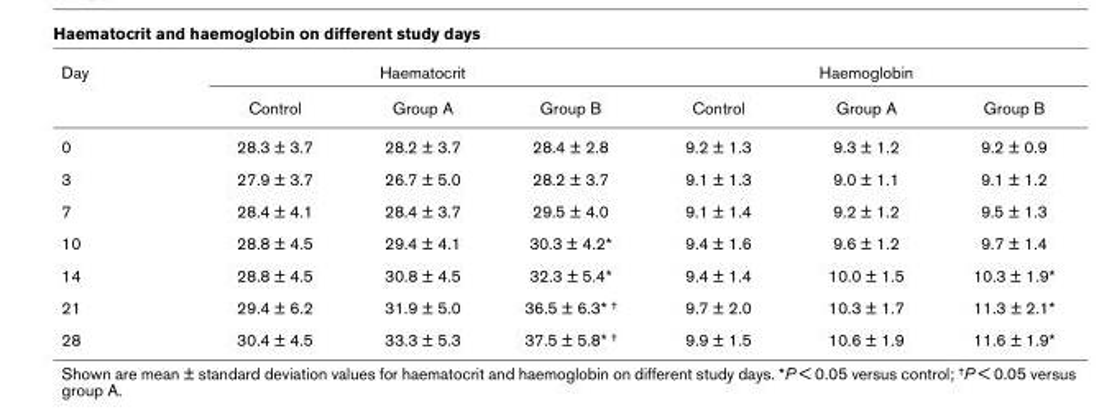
<table><thead><tr><td rowspan="2">Day</td><td colspan="3">Haematocrit</td><td colspan="3">Haemoglobin</td></tr><tr><td>Control</td><td>Group A</td><td>Group B</td><td>Control</td><td>Group A</td><td>Group B</td></tr></thead><tbody><tr><td>0</td><td>28.3 ± 3.7</td><td>28.2 ± 3.7</td><td>28.4 ± 2.8</td><td>9.2 ± 1.3</td><td>9.3 ± 1.2</td><td>9.2 ± 0.9</td></tr><tr><td>3</td><td>27.9 ± 3.7</td><td>26.7 ± 5.0</td><td>28.2 ± 3.7</td><td>9.1 ± 1.3</td><td>9.0 ± 1.1</td><td>9.1 ± 1.2</td></tr><tr><td>7</td><td>28.4 ± 4.1</td><td>28.4 ± 3.7</td><td>29.5 ± 4.0</td><td>9.1 ± 1.4</td><td>9.2 ± 1.2</td><td>9.5 ± 1.3</td></tr><tr><td>10</td><td>28.8 ± 4.5</td><td>29.4 ± 4.1</td><td>30.3 ± 4.2*</td><td>9.4 ± 1.6</td><td>9.6 ± 1.2</td><td>9.7 ± 1.4</td></tr><tr><td>14</td><td>28.8 ± 4.5</td><td>30.8 ± 4.5</td><td>32.3 ± 5.4*</td><td>9.4 ± 1.4</td><td>10.0 ± 1.5</td><td>10.3 ± 1.9*</td></tr><tr><td>21</td><td>29.4 ± 6.2</td><td>31.9 ± 5.0</td><td>36.5 ± 6.3* †</td><td>9.7 ± 2.0</td><td>10.3 ± 1.7</td><td>11.3 ± 2.1*</td></tr><tr><td>28</td><td>30.4 ± 4.5</td><td>33.3 ± 5.3</td><td>37.5 ± 5.8* †</td><td>9.9 ± 1.5</td><td>10.6 ± 1.9</td><td>11.6 ± 1.9*</td></tr></tbody></table>